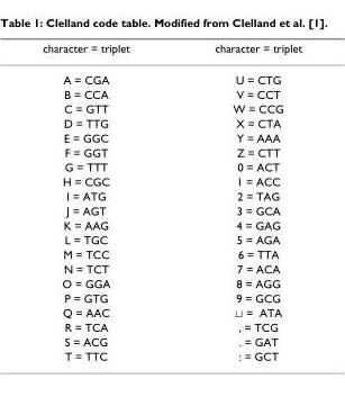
<table><thead><tr><td>character = triplet</td><td>character = triplet</td></tr></thead><tbody><tr><td>A = CGA</td><td>U = CTG</td></tr><tr><td>B = CCA</td><td>V = CCT</td></tr><tr><td>C = GTT</td><td>W = CCG</td></tr><tr><td>D = TTG</td><td>X = CTA</td></tr><tr><td>E = GGC</td><td>Y = AAA</td></tr><tr><td>F = GGT</td><td>Z = CTT</td></tr><tr><td>G = TTT</td><td>0 = ACT</td></tr><tr><td>H = CGC</td><td>1 = ACC</td></tr><tr><td>I = ATG</td><td>2 = TAG</td></tr><tr><td>J = AGT</td><td>3 = GCA</td></tr><tr><td>K = AAG</td><td>4 = GAG</td></tr><tr><td>L = TGC</td><td>5 = AGA</td></tr><tr><td>M = TCC</td><td>6 = TTA</td></tr><tr><td>N = TCT</td><td>7 = ACA</td></tr><tr><td>O = GGA</td><td>8 = AGG</td></tr><tr><td>P = GTG</td><td>9 = GCG</td></tr><tr><td>Q = AAC</td><td>+ = ATA</td></tr><tr><td>R = TCA</td><td>, = TCG</td></tr><tr><td>S = ACG</td><td>. = GAT</td></tr><tr><td>T = TTC</td><td>: = GCT</td></tr></tbody></table>